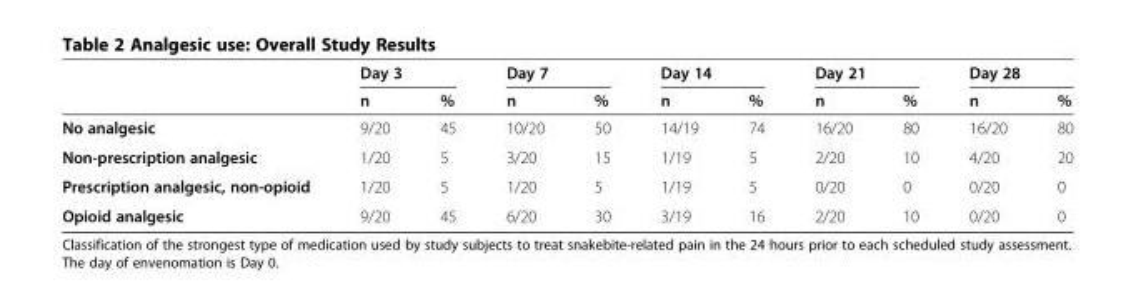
<table><thead><tr><td rowspan="2"></td><td colspan="2">Day 3</td><td colspan="2">Day 7</td><td colspan="2">Day 14</td><td colspan="2">Day 21</td><td colspan="2">Day 28</td></tr><tr><td>n</td><td>%</td><td>n</td><td>%</td><td>n</td><td>%</td><td>n</td><td>%</td><td>n</td><td>%</td></tr></thead><tbody><tr><td>No analgesic</td><td>9/20</td><td>45</td><td>10/20</td><td>50</td><td>14/19</td><td>74</td><td>16/20</td><td>80</td><td>16/20</td><td>80</td></tr><tr><td>Non-prescription analgesic</td><td>1/20</td><td>5</td><td>3/20</td><td>15</td><td>1/19</td><td>5</td><td>2/20</td><td>10</td><td>4/20</td><td>20</td></tr><tr><td>Prescription analgesic, non-opioid</td><td>1/20</td><td>5</td><td>1/20</td><td>5</td><td>1/19</td><td>5</td><td>0/20</td><td>0</td><td>0/20</td><td>0</td></tr><tr><td>Opioid analgesic</td><td>9/20</td><td>45</td><td>6/20</td><td>30</td><td>3/19</td><td>16</td><td>2/20</td><td>10</td><td>0/20</td><td>0</td></tr></tbody></table>